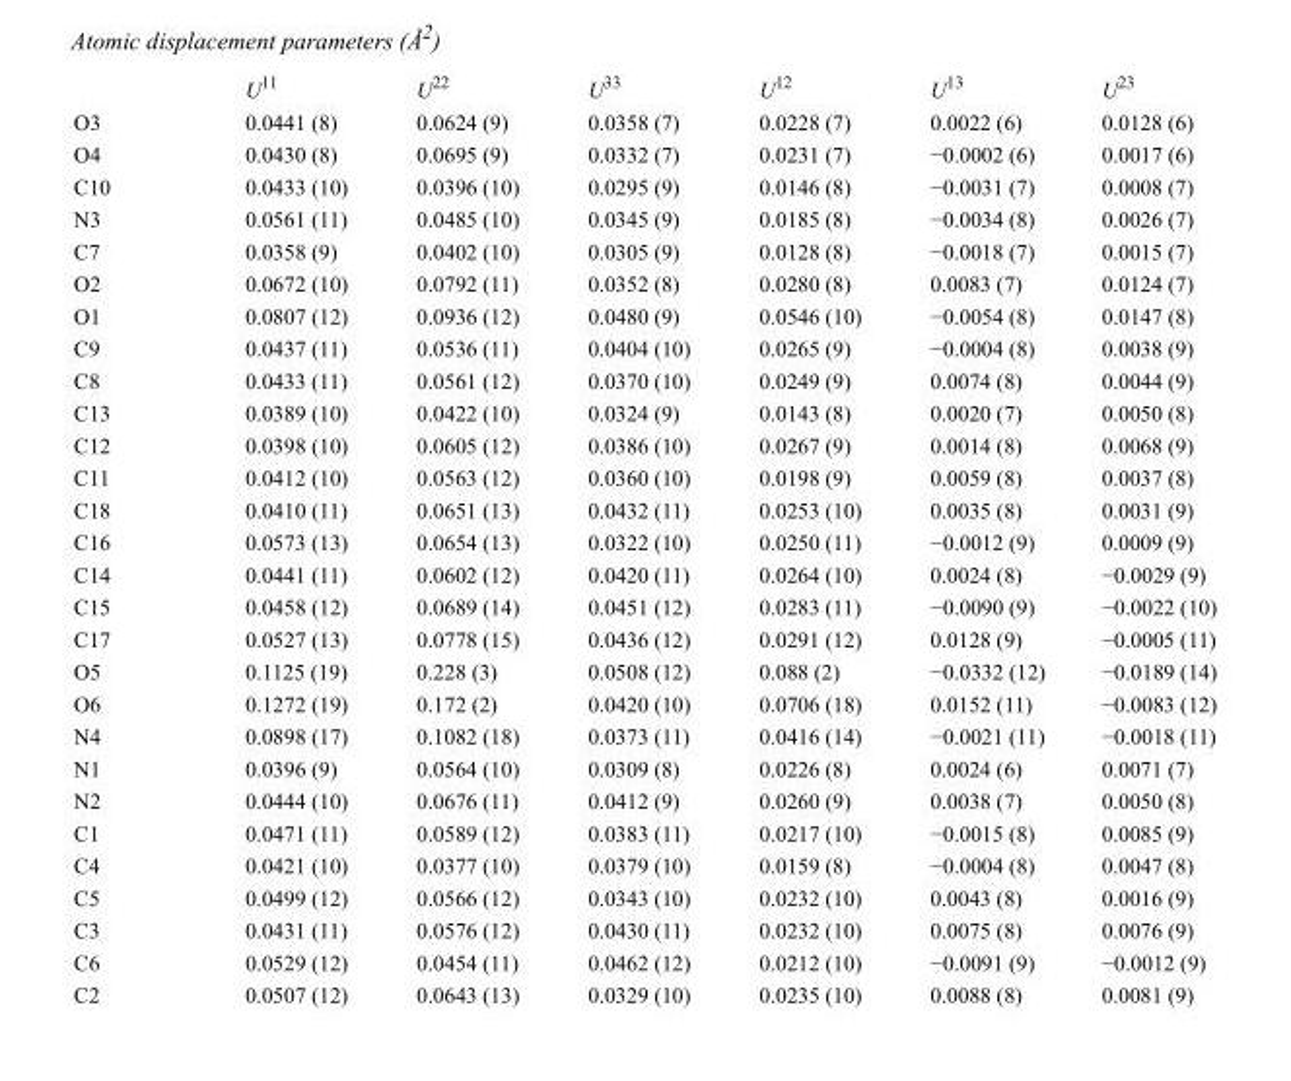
<table><thead><tr><td></td><td>U<sup>11</sup></td><td>U<sup>22</sup></td><td>U<sup>33</sup></td><td>U<sup>12</sup></td><td>U<sup>13</sup></td><td>U<sup>23</sup></td></tr></thead><tbody><tr><td>O3</td><td>0.0441 (8)</td><td>0.0624 (9)</td><td>0.0358 (7)</td><td>0.0228 (7)</td><td>0.0022 (6)</td><td>0.0128 (6)</td></tr><tr><td>O4</td><td>0.0430 (8)</td><td>0.0695 (9)</td><td>0.0332 (7)</td><td>0.0231 (7)</td><td>−0.0002 (6)</td><td>0.0017 (6)</td></tr><tr><td>C10</td><td>0.0433 (10)</td><td>0.0396 (10)</td><td>0.0295 (9)</td><td>0.0146 (8)</td><td>−0.0031 (7)</td><td>0.0008 (7)</td></tr><tr><td>N3</td><td>0.0561 (11)</td><td>0.0485 (10)</td><td>0.0345 (9)</td><td>0.0185 (8)</td><td>−0.0034 (8)</td><td>0.0026 (7)</td></tr><tr><td>C7</td><td>0.0358 (9)</td><td>0.0402 (10)</td><td>0.0305 (9)</td><td>0.0128 (8)</td><td>−0.0018 (7)</td><td>0.0015 (7)</td></tr><tr><td>O2</td><td>0.0672 (10)</td><td>0.0792 (11)</td><td>0.0352 (8)</td><td>0.0280 (8)</td><td>0.0083 (7)</td><td>0.0124 (7)</td></tr><tr><td>O1</td><td>0.0807 (12)</td><td>0.0936 (12)</td><td>0.0480 (9)</td><td>0.0546 (10)</td><td>−0.0054 (8)</td><td>0.0147 (8)</td></tr><tr><td>C9</td><td>0.0437 (11)</td><td>0.0536 (11)</td><td>0.0404 (10)</td><td>0.0265 (9)</td><td>−0.0004 (8)</td><td>0.0038 (9)</td></tr><tr><td>C8</td><td>0.0433 (11)</td><td>0.0561 (12)</td><td>0.0370 (10)</td><td>0.0249 (9)</td><td>0.0074 (8)</td><td>0.0044 (9)</td></tr><tr><td>C13</td><td>0.0389 (10)</td><td>0.0422 (10)</td><td>0.0324 (9)</td><td>0.0143 (8)</td><td>0.0020 (7)</td><td>0.0050 (8)</td></tr><tr><td>C12</td><td>0.0398 (10)</td><td>0.0605 (12)</td><td>0.0386 (10)</td><td>0.0267 (9)</td><td>0.0014 (8)</td><td>0.0068 (9)</td></tr><tr><td>C11</td><td>0.0412 (10)</td><td>0.0563 (12)</td><td>0.0360 (10)</td><td>0.0198 (9)</td><td>0.0059 (8)</td><td>0.0037 (8)</td></tr><tr><td>C18</td><td>0.0410 (11)</td><td>0.0651 (13)</td><td>0.0432 (11)</td><td>0.0253 (10)</td><td>0.0035 (8)</td><td>0.0031 (9)</td></tr><tr><td>C16</td><td>0.0573 (13)</td><td>0.0654 (13)</td><td>0.0322 (10)</td><td>0.0250 (11)</td><td>−0.0012 (9)</td><td>0.0009 (9)</td></tr><tr><td>C14</td><td>0.0441 (11)</td><td>0.0602 (12)</td><td>0.0420 (11)</td><td>0.0264 (10)</td><td>0.0024 (8)</td><td>−0.0029 (9)</td></tr><tr><td>C15</td><td>0.0458 (12)</td><td>0.0689 (14)</td><td>0.0451 (12)</td><td>0.0283 (11)</td><td>−0.0090 (9)</td><td>−0.0022 (10)</td></tr><tr><td>C17</td><td>0.0527 (13)</td><td>0.0778 (15)</td><td>0.0436 (12)</td><td>0.0291 (12)</td><td>0.0128 (9)</td><td>−0.0005 (11)</td></tr><tr><td>O5</td><td>0.1125 (19)</td><td>0.228 (3)</td><td>0.0508 (12)</td><td>0.088 (2)</td><td>−0.0332 (12)</td><td>−0.0189 (14)</td></tr><tr><td>O6</td><td>0.1272 (19)</td><td>0.172 (2)</td><td>0.0420 (10)</td><td>0.0706 (18)</td><td>0.0152 (11)</td><td>−0.0083 (12)</td></tr><tr><td>N4</td><td>0.0898 (17)</td><td>0.1082 (18)</td><td>0.0373 (11)</td><td>0.0416 (14)</td><td>−0.0021 (11)</td><td>−0.0018 (11)</td></tr><tr><td>N1</td><td>0.0396 (9)</td><td>0.0564 (10)</td><td>0.0309 (8)</td><td>0.0226 (8)</td><td>0.0024 (6)</td><td>0.0071 (7)</td></tr><tr><td>N2</td><td>0.0444 (10)</td><td>0.0676 (11)</td><td>0.0412 (9)</td><td>0.0260 (9)</td><td>0.0038 (7)</td><td>0.0050 (8)</td></tr><tr><td>C1</td><td>0.0471 (11)</td><td>0.0589 (12)</td><td>0.0383 (11)</td><td>0.0217 (10)</td><td>−0.0015 (8)</td><td>0.0085 (9)</td></tr><tr><td>C4</td><td>0.0421 (10)</td><td>0.0377 (10)</td><td>0.0379 (10)</td><td>0.0159 (8)</td><td>−0.0004 (8)</td><td>0.0047 (8)</td></tr><tr><td>C5</td><td>0.0499 (12)</td><td>0.0566 (12)</td><td>0.0343 (10)</td><td>0.0232 (10)</td><td>0.0043 (8)</td><td>0.0016 (9)</td></tr><tr><td>C3</td><td>0.0431 (11)</td><td>0.0576 (12)</td><td>0.0430 (11)</td><td>0.0232 (10)</td><td>0.0075 (8)</td><td>0.0076 (9)</td></tr><tr><td>C6</td><td>0.0529 (12)</td><td>0.0454 (11)</td><td>0.0462 (12)</td><td>0.0212 (10)</td><td>−0.0091 (9)</td><td>−0.0012 (9)</td></tr><tr><td>C2</td><td>0.0507 (12)</td><td>0.0643 (13)</td><td>0.0329 (10)</td><td>0.0235 (10)</td><td>0.0088 (8)</td><td>0.0081 (9)</td></tr></tbody></table>